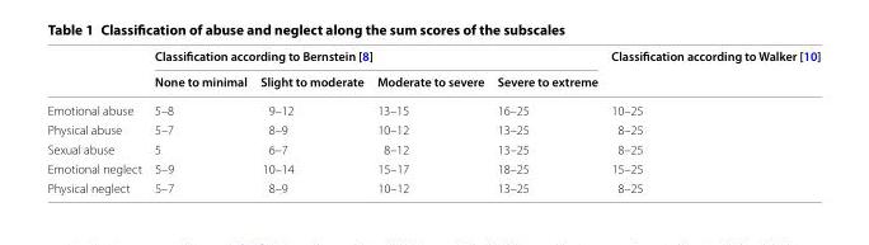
<table><thead><tr><td rowspan="2"></td><td colspan="4">Classification according to Bernstein [8]</td><td rowspan="2">Classification according to Walker [10]</td></tr><tr><td>None to minimal</td><td>Slight to moderate</td><td>Moderate to severe</td><td>Severe to extreme</td></tr></thead><tbody><tr><td>Emotional abuse</td><td>5–8</td><td>9–12</td><td>13–15</td><td>16–25</td><td>10–25</td></tr><tr><td>Physical abuse</td><td>5–7</td><td>8–9</td><td>10–12</td><td>13–25</td><td>8–25</td></tr><tr><td>Sexual abuse</td><td>5</td><td>6–7</td><td>8–12</td><td>13–25</td><td>8–25</td></tr><tr><td>Emotional neglect</td><td>5–9</td><td>10–14</td><td>15–17</td><td>18–25</td><td>15–25</td></tr><tr><td>Physical neglect</td><td>5–7</td><td>8–9</td><td>10–12</td><td>13–25</td><td>8–25</td></tr></tbody></table>